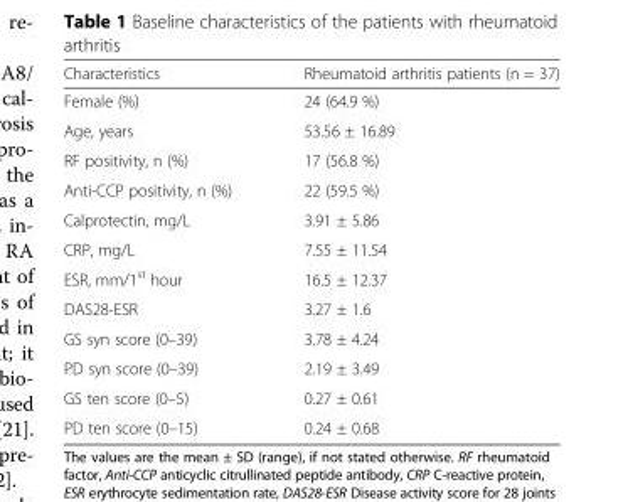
<table><thead><tr><td>Characteristics</td><td>Rheumatoid arthritis patients (n = 37)</td></tr></thead><tbody><tr><td>Female (%)</td><td>24 (64.9 %)</td></tr><tr><td>Age, years</td><td>53.56 ± 16.89</td></tr><tr><td>RF positivity, n (%)</td><td>17 (56.8 %)</td></tr><tr><td>Anti-CCP positivity, n (%)</td><td>22 (59.5 %)</td></tr><tr><td>Calprotectin, mg/L</td><td>3.91 ± 5.86</td></tr><tr><td>CRP, mg/L</td><td>7.55 ± 11.54</td></tr><tr><td>ESR, mm/1<sup>st</sup> hour</td><td>16.5 ± 12.37</td></tr><tr><td>DAS28-ESR</td><td>3.27 ± 1.6</td></tr><tr><td>GS syn score (0–39)</td><td>3.78 ± 4.24</td></tr><tr><td>PD syn score (0–39)</td><td>2.19 ± 3.49</td></tr><tr><td>GS ten score (0–5)</td><td>0.27 ± 0.61</td></tr><tr><td>PD ten score (0–15)</td><td>0.24 ± 0.68</td></tr></tbody></table>